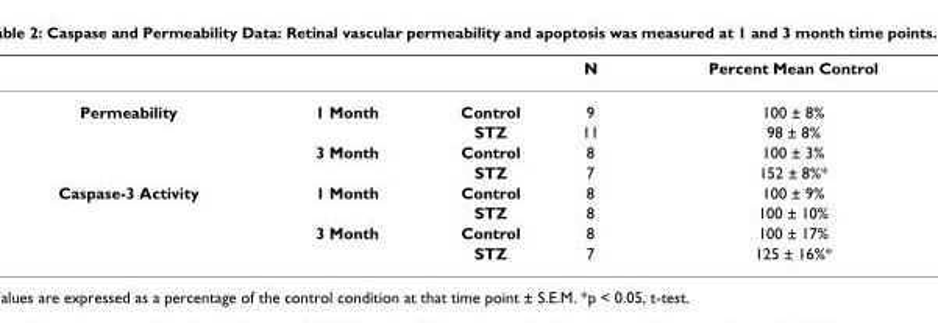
<table><thead><tr><td></td><td></td><td></td><td>N</td><td>Percent Mean Control</td></tr></thead><tbody><tr><td rowspan="4">Permeability</td><td>1 Month</td><td>Control</td><td>9</td><td>100 ± 8%</td></tr><tr><td></td><td>STZ</td><td>11</td><td>98 ± 8%</td></tr><tr><td>3 Month</td><td>Control</td><td>8</td><td>100 ± 3%</td></tr><tr><td></td><td>STZ</td><td>7</td><td>152 ± 8%*</td></tr><tr><td rowspan="4">Caspase-3 Activity</td><td>1 Month</td><td>Control</td><td>8</td><td>100 ± 9%</td></tr><tr><td></td><td>STZ</td><td>8</td><td>100 ± 10%</td></tr><tr><td>3 Month</td><td>Control</td><td>8</td><td>100 ± 17%</td></tr><tr><td></td><td>STZ</td><td>7</td><td>125 ± 16%*</td></tr></tbody></table>